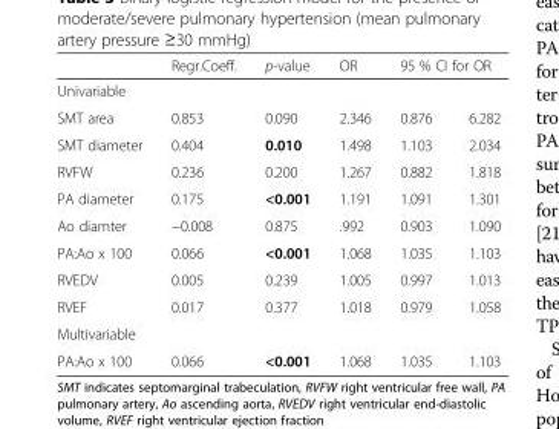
<table><thead><tr><td rowspan="2">Univariable</td><td rowspan="2">Regr.Coeff.</td><td rowspan="2">p-value</td><td rowspan="2">OR</td><td colspan="2">95 % CI for OR</td></tr><tr><td></td><td></td></tr></thead><tbody><tr><td>SMT area</td><td>0.853</td><td>0.090</td><td>2.346</td><td>0.876</td><td>6.282</td></tr><tr><td>SMT diameter</td><td>0.404</td><td>0.010</td><td>1.498</td><td>1.103</td><td>2.034</td></tr><tr><td>RVFW</td><td>0.236</td><td>0.200</td><td>1.267</td><td>0.882</td><td>1.818</td></tr><tr><td>PA diameter</td><td>0.175</td><td>&lt;0.001</td><td>1.191</td><td>1.091</td><td>1.301</td></tr><tr><td>Ao diamter</td><td>−0.008</td><td>0.875</td><td>.992</td><td>0.903</td><td>1.090</td></tr><tr><td>PA:Ao x 100</td><td>0.066</td><td>&lt;0.001</td><td>1.068</td><td>1.035</td><td>1.103</td></tr><tr><td>RVEDV</td><td>0.005</td><td>0.239</td><td>1.005</td><td>0.997</td><td>1.013</td></tr><tr><td>RVEF</td><td>0.017</td><td>0.377</td><td>1.018</td><td>0.979</td><td>1.058</td></tr><tr><td colspan="6">Multivariable</td></tr><tr><td>PA:Ao x 100</td><td>0.066</td><td>&lt;0.001</td><td>1.068</td><td>1.035</td><td>1.103</td></tr></tbody></table>